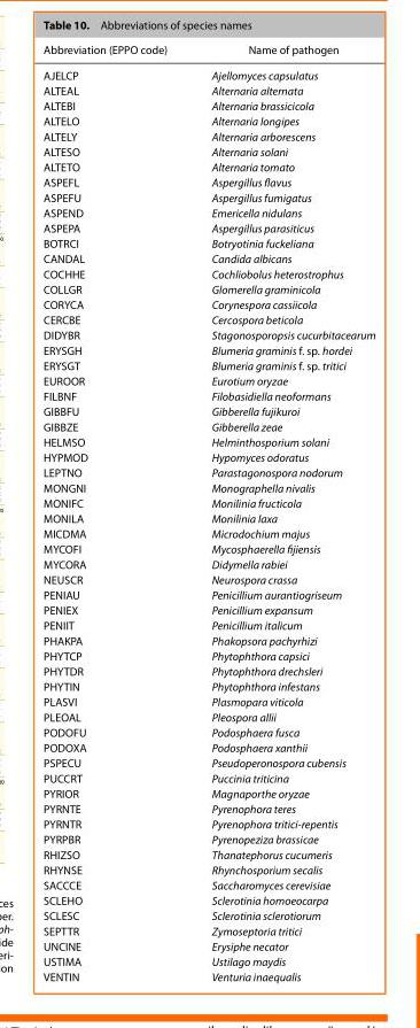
<table><thead><tr><td>Abbreviation (EPPO code)</td><td>Name of pathogen</td></tr></thead><tbody><tr><td>AJELCP</td><td>Ajellomyces capsulatus</td></tr><tr><td>ALTEAL</td><td>Alternaria alternata</td></tr><tr><td>ALTEBI</td><td>Alternaria brassicicola</td></tr><tr><td>ALTELO</td><td>Alternaria longipes</td></tr><tr><td>ALTELY</td><td>Alternaria arborescens</td></tr><tr><td>ALTESO</td><td>Alternaria solani</td></tr><tr><td>ALTETO</td><td>Alternaria tomato</td></tr><tr><td>ASPEFL</td><td>Aspergillus flavus</td></tr><tr><td>ASPEFU</td><td>Aspergillus fumigatus</td></tr><tr><td>ASPEND</td><td>Emericella nidulans</td></tr><tr><td>ASPEPA</td><td>Aspergillus parasiticus</td></tr><tr><td>BOTRCI</td><td>Botryotinia fuckeliana</td></tr><tr><td>CANDAL</td><td>Candida albicans</td></tr><tr><td>COCHHE</td><td>Cochliobolus heterostrophus</td></tr><tr><td>COLLGR</td><td>Glomerella graminicola</td></tr><tr><td>CORYCA</td><td>Corynespora cassiicola</td></tr><tr><td>CERCBE</td><td>Cercospora beticola</td></tr><tr><td>DIDYBR</td><td>Stagonosporopsis cucurbitacearum</td></tr><tr><td>ERYSGH</td><td>Blumeria graminis f. sp. hordei</td></tr><tr><td>ERYSGT</td><td>Blumeria graminis f. sp. tritici</td></tr><tr><td>EUROOR</td><td>Eurotium oryzae</td></tr><tr><td>FILBNF</td><td>Filobasidiella neoformans</td></tr><tr><td>GIBBFU</td><td>Gibberella fujikuroi</td></tr><tr><td>GIBBZE</td><td>Gibberella zeae</td></tr><tr><td>HELMSO</td><td>Helminthosporium solani</td></tr><tr><td>HYPMOD</td><td>Hypomyces odoratus</td></tr><tr><td>LEPTNO</td><td>Parastagonospora nodorum</td></tr><tr><td>MONGNI</td><td>Monographella nivalis</td></tr><tr><td>MONIFC</td><td>Monilinia fructicola</td></tr><tr><td>MONILA</td><td>Monilinia laxa</td></tr><tr><td>MICDMA</td><td>Microdochium majus</td></tr><tr><td>MYCOFI</td><td>Mycosphaerella fijiensis</td></tr><tr><td>MYCORA</td><td>Didymella rabiei</td></tr><tr><td>NEUSCR</td><td>Neurospora crassa</td></tr><tr><td>PENIAU</td><td>Penicillium aurantiogriseum</td></tr><tr><td>PENIEX</td><td>Penicillium expansum</td></tr><tr><td>PENIIT</td><td>Penicillium italicum</td></tr><tr><td>PHAKPA</td><td>Phakopsora pachyrhizi</td></tr><tr><td>PHYTCP</td><td>Phytophthora capsici</td></tr><tr><td>PHYTDR</td><td>Phytophthora drechsleri</td></tr><tr><td>PHYTIN</td><td>Phytophthora infestans</td></tr><tr><td>PLASVI</td><td>Plasmopara viticola</td></tr><tr><td>PLEOAL</td><td>Pleospora allii</td></tr><tr><td>PODOFU</td><td>Podosphaera fusca</td></tr><tr><td>PODOXA</td><td>Podosphaera xanthii</td></tr><tr><td>PSPECU</td><td>Pseudoperonospora cubensis</td></tr><tr><td>PUCCRT</td><td>Puccinia triticina</td></tr><tr><td>PYRIOR</td><td>Magnaporthe oryzae</td></tr><tr><td>PYRNTE</td><td>Pyrenophora teres</td></tr><tr><td>PYRNTR</td><td>Pyrenophora tritici-repentis</td></tr><tr><td>PYRPBR</td><td>Pyrenopeziza brassicae</td></tr><tr><td>RHIZSO</td><td>Thanatephorus cucumeris</td></tr><tr><td>RHYNSE</td><td>Rhynchosporium secalis</td></tr><tr><td>SACCCE</td><td>Saccharomyces cerevisiae</td></tr><tr><td>SCLEHO</td><td>Sclerotinia homoeocarpa</td></tr><tr><td>SCLESC</td><td>Sclerotinia sclerotiorum</td></tr><tr><td>SEPTTR</td><td>Zymoseptoria tritici</td></tr><tr><td>UNCINE</td><td>Erysiphe necator</td></tr><tr><td>USTIMA</td><td>Ustilago maydis</td></tr><tr><td>VENTIN</td><td>Venturia inaequalis</td></tr></tbody></table>